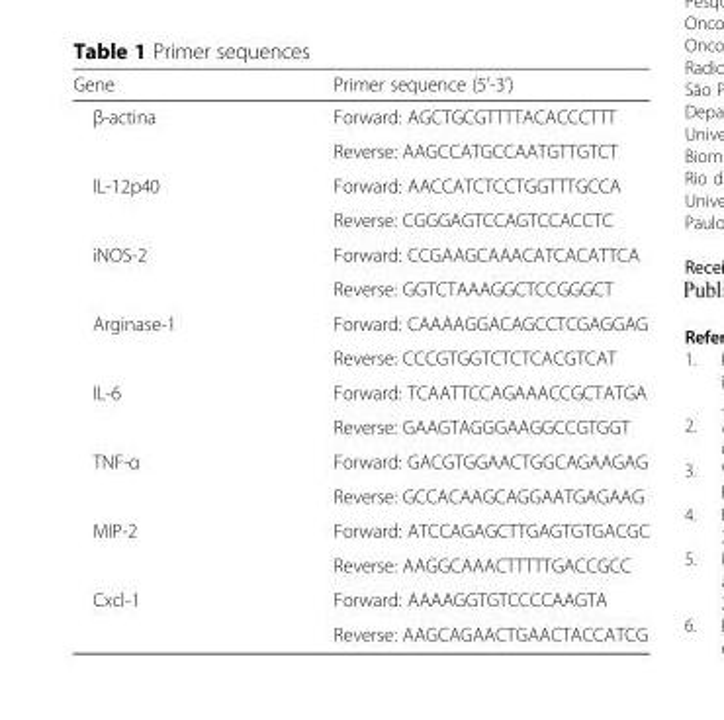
<table><thead><tr><td>Gene</td><td>Primer sequence (5’-3’)</td></tr></thead><tbody><tr><td rowspan="2">β-actina</td><td>Forward: AGCTGCGTTTTACACCCTTT</td></tr><tr><td>Reverse: AAGCCATGCCAATGTTGTCT</td></tr><tr><td rowspan="2">IL-12p40</td><td>Forward: AACCATCTCCTGGTTTGCCA</td></tr><tr><td>Reverse: CGGGAGTCCAGTCCACCTC</td></tr><tr><td rowspan="2">iNOS-2</td><td>Forward: CCGAAGCAAACATCACATTCA</td></tr><tr><td>Reverse: GGTCTAAAGGCTCCGGGCT</td></tr><tr><td rowspan="2">Arginase-1</td><td>Forward: CAAAAGGACAGCCTCGAGGAG</td></tr><tr><td>Reverse: CCCGTGGTCTCTCACGTCAT</td></tr><tr><td rowspan="2">IL-6</td><td>Forward: TCAATTCCAGAAACCGCTATGA</td></tr><tr><td>Reverse: GAAGTAGGGAAGGCCGTGGT</td></tr><tr><td rowspan="2">TNF-α</td><td>Forward: GACGTGGAACTGGCAGAAGAG</td></tr><tr><td>Reverse: GCCACAAGCAGGAATGAGAAG</td></tr><tr><td rowspan="2">MIP-2</td><td>Forward: ATCCAGAGCTTGAGTGTGACGC</td></tr><tr><td>Reverse: AAGGCAAACTTTTTGACCGCC</td></tr><tr><td rowspan="2">Cxcl-1</td><td>Forward: AAAAGGTGTCCCCAAGTA</td></tr><tr><td>Reverse: AAGCAGAACTGAACTACCATCG</td></tr></tbody></table>